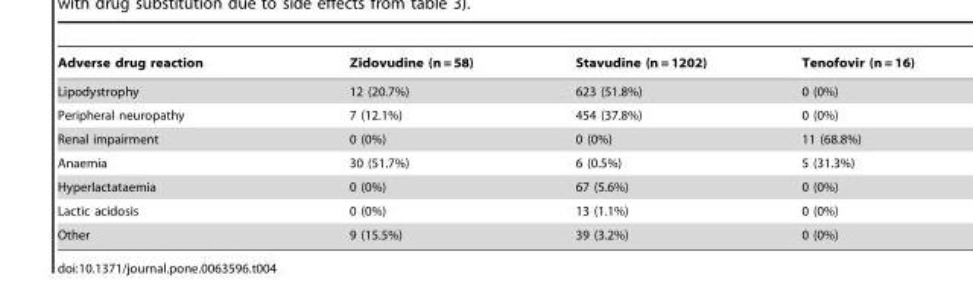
<table><thead><tr><td>Adverse drug reaction</td><td>Zidovudine (n = 58)</td><td>Stavudine (n = 1202)</td><td>Tenofovir (n = 16)</td></tr></thead><tbody><tr><td>Lipodystrophy</td><td>12 (20.7%)</td><td>623 (51.8%)</td><td>0 (0%)</td></tr><tr><td>Peripheral neuropathy</td><td>7 (12.1%)</td><td>454 (37.8%)</td><td>0 (0%)</td></tr><tr><td>Renal impairment</td><td>0 (0%)</td><td>0 (0%)</td><td>11 (68.8%)</td></tr><tr><td>Anaemia</td><td>30 (51.7%)</td><td>6 (0.5%)</td><td>5 (31.3%)</td></tr><tr><td>Hyperlactataemia</td><td>0 (0%)</td><td>67 (5.6%)</td><td>0 (0%)</td></tr><tr><td>Lactic acidosis</td><td>0 (0%)</td><td>13 (1.1%)</td><td>0 (0%)</td></tr><tr><td>Other</td><td>9 (15.5%)</td><td>39 (3.2%)</td><td>0 (0%)</td></tr></tbody></table>